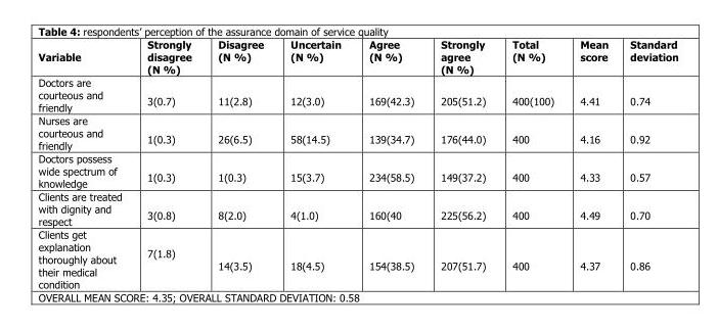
<table><thead><tr><td>Variable</td><td>Strongly disagree (N %)</td><td>Disagree (N %)</td><td>Uncertain (N %)</td><td>Agree (N %)</td><td>Strongly agree (N %)</td><td>Total (N %)</td><td>Mean score</td><td>Standard deviation</td></tr></thead><tbody><tr><td>Doctors are courteous and friendly</td><td>3(0.7)</td><td>11(2.8)</td><td>12(3.0)</td><td>169(42.3)</td><td>205(51.2)</td><td>400(100)</td><td>4.41</td><td>0.74</td></tr><tr><td>Nurses are courteous and friendly</td><td>1(0.3)</td><td>26(6.5)</td><td>58(14.5)</td><td>139(34.7)</td><td>176(44.0)</td><td>400</td><td>4.16</td><td>0.92</td></tr><tr><td>Doctors possess wide spectrum of knowledge</td><td>1(0.3)</td><td>1(0.3)</td><td>15(3.7)</td><td>234(58.5)</td><td>149(37.2)</td><td>400</td><td>4.33</td><td>0.57</td></tr><tr><td>Clients are treated with dignity and respect</td><td>3(0.8)</td><td>8(2.0)</td><td>4(1.0)</td><td>160(40</td><td>225(56.2)</td><td>400</td><td>4.49</td><td>0.70</td></tr><tr><td>Clients get explanation thoroughly about their medical condition</td><td>7(1.8)</td><td>14(3.5)</td><td>18(4.5)</td><td>154(38.5)</td><td>207(51.7)</td><td>400</td><td>4.37</td><td>0.86</td></tr></tbody></table>